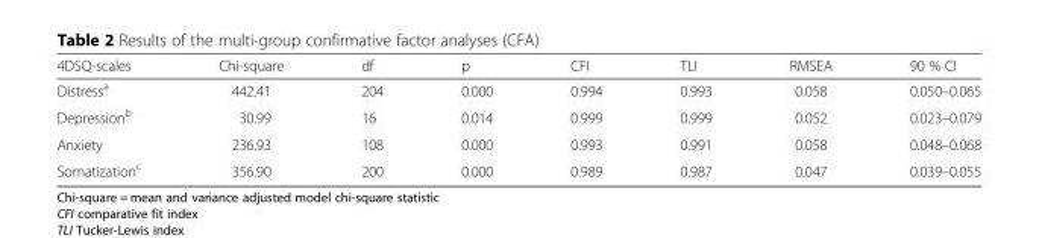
<table><thead><tr><td>4DSQ-scales</td><td>Chi-square</td><td>df</td><td>p</td><td>CFI</td><td>TLI</td><td>RMSEA</td><td>90 % CI</td></tr></thead><tbody><tr><td>Distress<sup>a</sup></td><td>442.41</td><td>204</td><td>0.000</td><td>0.994</td><td>0.993</td><td>0.058</td><td>0.050–0.065</td></tr><tr><td>Depression<sup>b</sup></td><td>30.99</td><td>16</td><td>0.014</td><td>0.999</td><td>0.999</td><td>0.052</td><td>0.023–0.079</td></tr><tr><td>Anxiety</td><td>236.93</td><td>108</td><td>0.000</td><td>0.993</td><td>0.991</td><td>0.058</td><td>0.048–0.068</td></tr><tr><td>Somatization<sup>c</sup></td><td>356.90</td><td>200</td><td>0.000</td><td>0.989</td><td>0.987</td><td>0.047</td><td>0.039–0.055</td></tr></tbody></table>